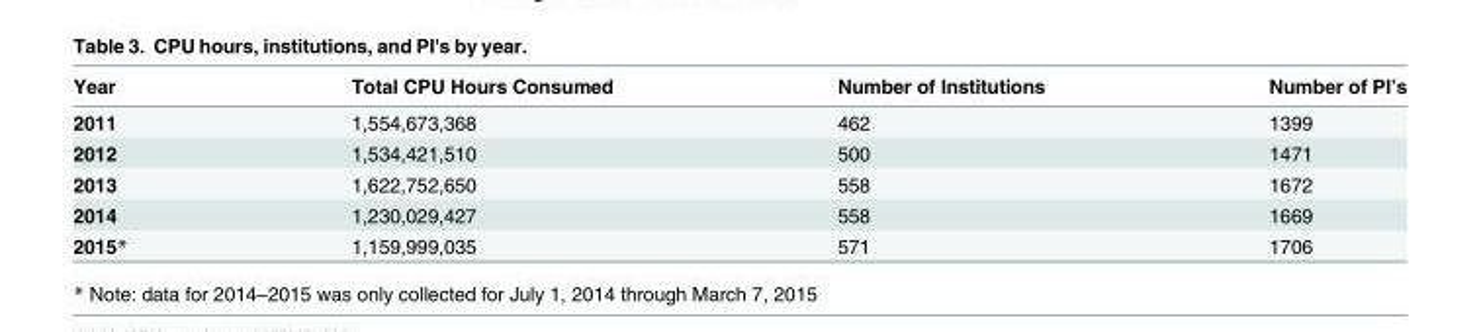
<table><thead><tr><td>Year</td><td>Total CPU Hours Consumed</td><td>Number of Institutions</td><td>Number of PI’s</td></tr></thead><tbody><tr><td>2011</td><td>1,554,673,368</td><td>462</td><td>1399</td></tr><tr><td>2012</td><td>1,534,421,510</td><td>500</td><td>1471</td></tr><tr><td>2013</td><td>1,622,752,650</td><td>558</td><td>1672</td></tr><tr><td>2014</td><td>1,230,029,427</td><td>558</td><td>1669</td></tr><tr><td>2015*</td><td>1,159,999,035</td><td>571</td><td>1706</td></tr></tbody></table>